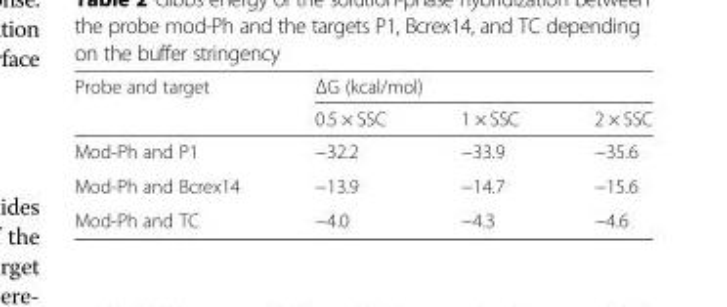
<table><thead><tr><td rowspan="2">Probe and target</td><td colspan="3">ΔG (kcal/mol)</td></tr><tr><td>0.5 × SSC</td><td>1 × SSC</td><td>2 × SSC</td></tr></thead><tbody><tr><td>Mod-Ph and P1</td><td>−32.2</td><td>−33.9</td><td>−35.6</td></tr><tr><td>Mod-Ph and Bcrex14</td><td>−13.9</td><td>−14.7</td><td>−15.6</td></tr><tr><td>Mod-Ph and TC</td><td>−4.0</td><td>−4.3</td><td>−4.6</td></tr></tbody></table>